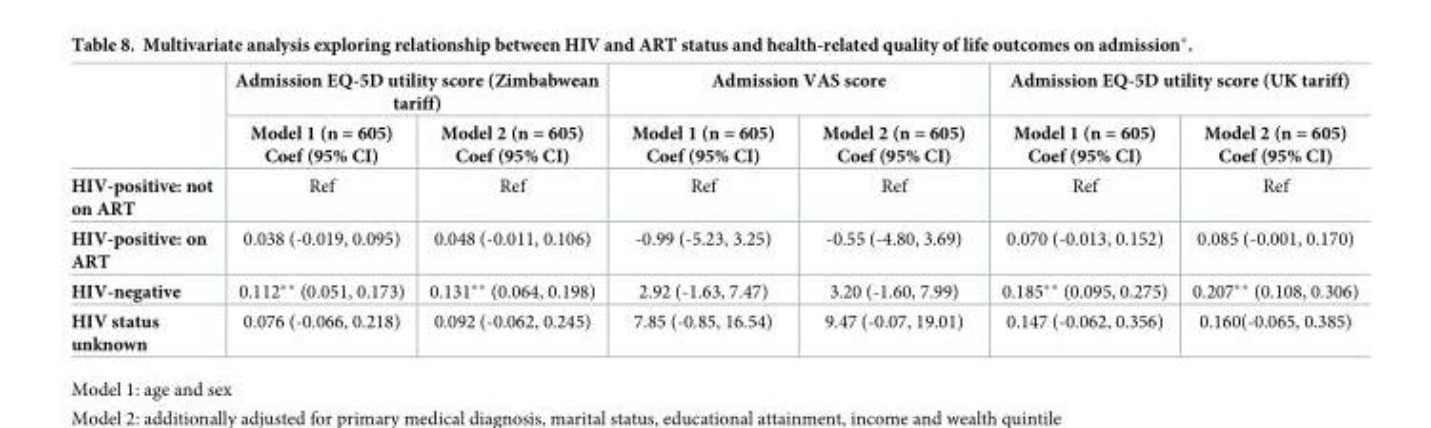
<table><thead><tr><td rowspan="2"></td><td colspan="2">Admission EQ-5D utility score (Zimbabwean tariff)</td><td colspan="2">Admission VAS score</td><td colspan="2">Admission EQ-5D utility score (UK tariff)</td></tr><tr><td>Model 1 (n = 605) Coef (95% CI)</td><td>Model 2 (n = 605) Coef (95% CI)</td><td>Model 1 (n = 605) Coef (95% CI)</td><td>Model 2 (n = 605) Coef (95% CI)</td><td>Model 1 (n = 605) Coef (95% CI)</td><td>Model 2 (n = 605) Coef (95% CI)</td></tr></thead><tbody><tr><td>HIV-positive: not on ART</td><td>Ref</td><td>Ref</td><td>Ref</td><td>Ref</td><td>Ref</td><td>Ref</td></tr><tr><td>HIV-positive: on ART</td><td>0.038 (-0.019, 0.095)</td><td>0.048 (-0.011, 0.106)</td><td>-0.99 (-5.23, 3.25)</td><td>-0.55 (-4.80, 3.69)</td><td>0.070 (-0.013, 0.152)</td><td>0.085 (-0.001, 0.170)</td></tr><tr><td>HIV-negative</td><td>0.112** (0.051, 0.173)</td><td>0.131** (0.064, 0.198)</td><td>2.92 (-1.63, 7.47)</td><td>3.20 (-1.60, 7.99)</td><td>0.185** (0.095, 0.275)</td><td>0.207** (0.108, 0.306)</td></tr><tr><td>HIV status unknown</td><td>0.076 (-0.066, 0.218)</td><td>0.092 (-0.062, 0.245)</td><td>7.85 (-0.85, 16.54)</td><td>9.47 (-0.07, 19.01)</td><td>0.147 (-0.062, 0.356)</td><td>0.160(-0.065, 0.385)</td></tr></tbody></table>